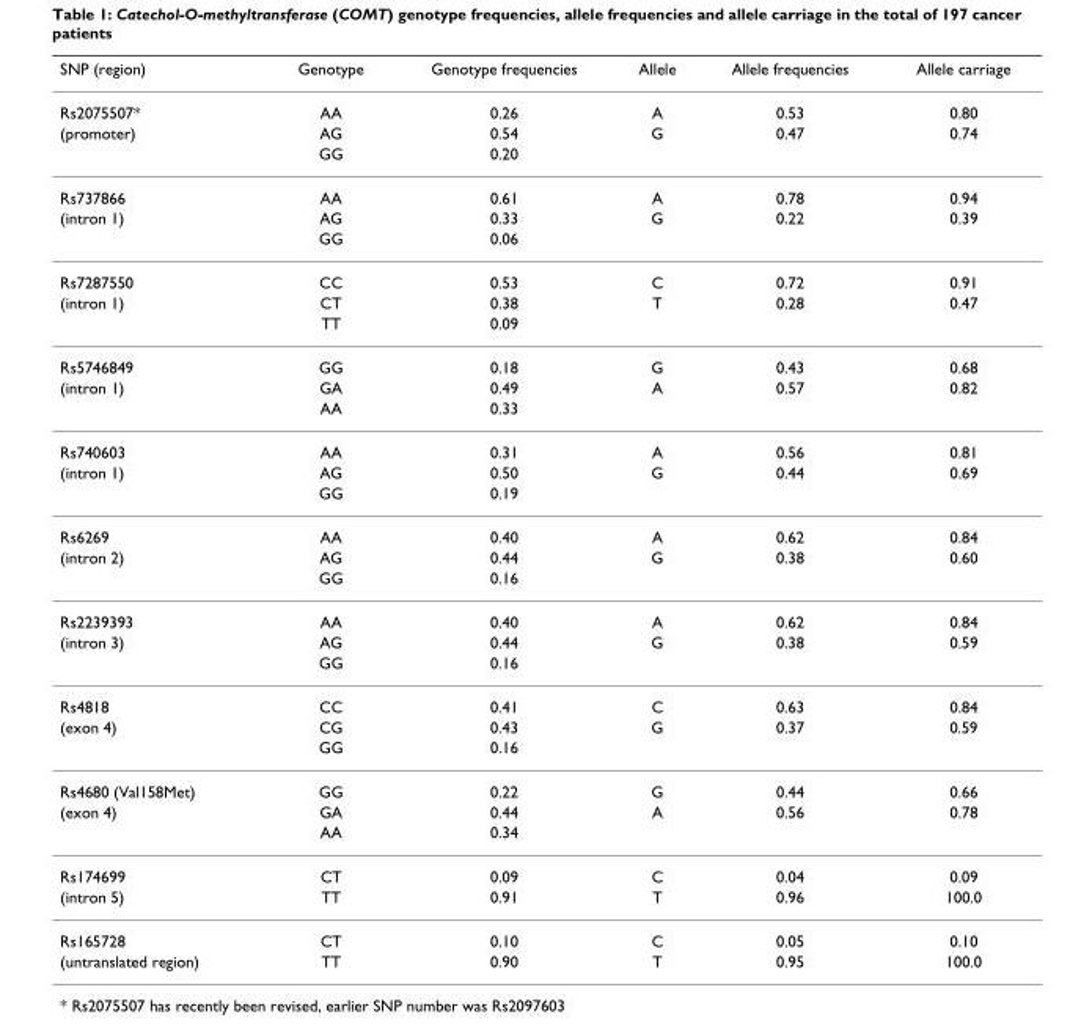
<table><thead><tr><td>SNP (region)</td><td>Genotype</td><td>Genotype frequencies</td><td>Allele</td><td>Allele frequencies</td><td>Allele carriage</td></tr></thead><tbody><tr><td>Rs2075507*</td><td>AA</td><td>0.26</td><td>A</td><td>0.53</td><td>0.80</td></tr><tr><td rowspan="2">(promoter)</td><td>AG</td><td>0.54</td><td>G</td><td>0.47</td><td>0.74</td></tr><tr><td>GG</td><td>0.20</td><td></td><td></td><td></td></tr><tr><td>Rs737866</td><td>AA</td><td>0.61</td><td>A</td><td>0.78</td><td>0.94</td></tr><tr><td rowspan="2">(intron 1)</td><td>AG</td><td>0.33</td><td>G</td><td>0.22</td><td>0.39</td></tr><tr><td>GG</td><td>0.06</td><td></td><td></td><td></td></tr><tr><td>Rs7287550</td><td>CC</td><td>0.53</td><td>C</td><td>0.72</td><td>0.91</td></tr><tr><td rowspan="2">(intron 1)</td><td>CT</td><td>0.38</td><td>T</td><td>0.28</td><td>0.47</td></tr><tr><td>TT</td><td>0.09</td><td></td><td></td><td></td></tr><tr><td>Rs5746849</td><td>GG</td><td>0.18</td><td>G</td><td>0.43</td><td>0.68</td></tr><tr><td rowspan="2">(intron 1)</td><td>GA</td><td>0.49</td><td>A</td><td>0.57</td><td>0.82</td></tr><tr><td>AA</td><td>0.33</td><td></td><td></td><td></td></tr><tr><td>Rs740603</td><td>AA</td><td>0.31</td><td>A</td><td>0.56</td><td>0.81</td></tr><tr><td rowspan="2">(intron 1)</td><td>AG</td><td>0.50</td><td>G</td><td>0.44</td><td>0.69</td></tr><tr><td>GG</td><td>0.19</td><td></td><td></td><td></td></tr><tr><td>Rs6269</td><td>AA</td><td>0.40</td><td>A</td><td>0.62</td><td>0.84</td></tr><tr><td rowspan="2">(intron 2)</td><td>AG</td><td>0.44</td><td>G</td><td>0.38</td><td>0.60</td></tr><tr><td>GG</td><td>0.16</td><td></td><td></td><td></td></tr><tr><td>Rs2239393</td><td>AA</td><td>0.40</td><td>A</td><td>0.62</td><td>0.84</td></tr><tr><td rowspan="2">(intron 3)</td><td>AG</td><td>0.44</td><td>G</td><td>0.38</td><td>0.59</td></tr><tr><td>GG</td><td>0.16</td><td></td><td></td><td></td></tr><tr><td>Rs4818</td><td>CC</td><td>0.41</td><td>C</td><td>0.63</td><td>0.84</td></tr><tr><td rowspan="2">(exon 4)</td><td>CG</td><td>0.43</td><td>G</td><td>0.37</td><td>0.59</td></tr><tr><td>GG</td><td>0.16</td><td></td><td></td><td></td></tr><tr><td>Rs4680 (Val158Met)</td><td>GG</td><td>0.22</td><td>G</td><td>0.44</td><td>0.66</td></tr><tr><td rowspan="2">(exon 4)</td><td>GA</td><td>0.44</td><td>A</td><td>0.56</td><td>0.78</td></tr><tr><td>AA</td><td>0.34</td><td></td><td></td><td></td></tr><tr><td>Rs174699</td><td>CT</td><td>0.09</td><td>C</td><td>0.04</td><td>0.09</td></tr><tr><td>(intron 5)</td><td>TT</td><td>0.91</td><td>T</td><td>0.96</td><td>100.0</td></tr><tr><td>Rs165728</td><td>CT</td><td>0.10</td><td>C</td><td>0.05</td><td>0.10</td></tr><tr><td>(untranslated region)</td><td>TT</td><td>0.90</td><td>T</td><td>0.95</td><td>100.0</td></tr></tbody></table>